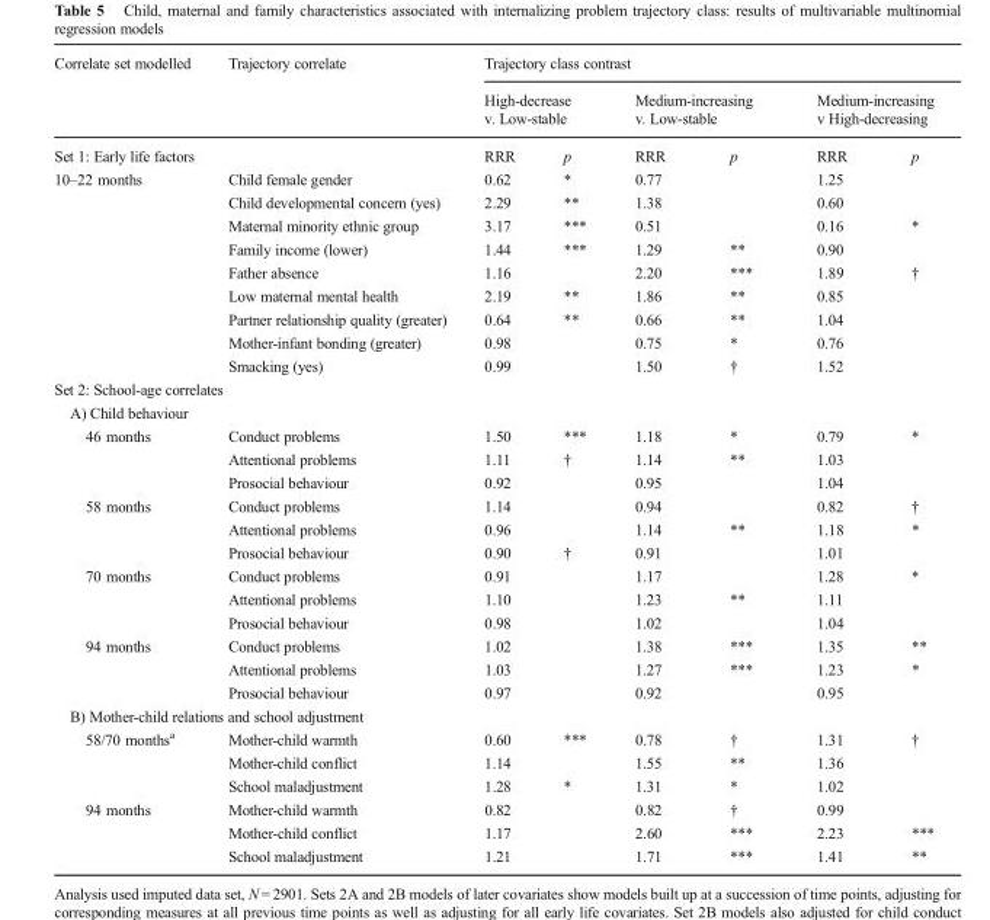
<table><thead><tr><td rowspan="2">Correlate set modelled</td><td rowspan="2">Trajectory correlate</td><td colspan="6">Trajectory class contrast</td></tr><tr><td colspan="2">High-decrease v. Low-stable</td><td colspan="2">Medium-increasing v. Low-stable</td><td colspan="2">Medium-increasing v High-decreasing</td></tr><tr><td colspan="2">Set 1: Early life factors</td><td>RRR</td><td>p</td><td>RRR</td><td>p</td><td>RRR</td><td>p</td></tr></thead><tbody><tr><td rowspan="9">10–22 months</td><td>Child female gender</td><td>0.62</td><td>*</td><td>0.77</td><td></td><td>1.25</td><td></td></tr><tr><td>Child developmental concern (yes)</td><td>2.29</td><td>**</td><td>1.38</td><td></td><td>0.60</td><td></td></tr><tr><td>Maternal minority ethnic group</td><td>3.17</td><td>***</td><td>0.51</td><td></td><td>0.16</td><td>*</td></tr><tr><td>Family income (lower)</td><td>1.44</td><td>***</td><td>1.29</td><td>**</td><td>0.90</td><td></td></tr><tr><td>Father absence</td><td>1.16</td><td></td><td>2.20</td><td>***</td><td>1.89</td><td>†</td></tr><tr><td>Low maternal mental health</td><td>2.19</td><td>**</td><td>1.86</td><td>**</td><td>0.85</td><td></td></tr><tr><td>Partner relationship quality (greater)</td><td>0.64</td><td>**</td><td>0.66</td><td>**</td><td>1.04</td><td></td></tr><tr><td>Mother-infant bonding (greater)</td><td>0.98</td><td></td><td>0.75</td><td>*</td><td>0.76</td><td></td></tr><tr><td>Smacking (yes)</td><td>0.99</td><td></td><td>1.50</td><td>†</td><td>1.52</td><td></td></tr><tr><td colspan="8">Set 2: School-age correlates</td></tr><tr><td colspan="8">A) Child behaviour</td></tr><tr><td rowspan="3">46 months</td><td>Conduct problems</td><td>1.50</td><td>***</td><td>1.18</td><td>*</td><td>0.79</td><td>*</td></tr><tr><td>Attentional problems</td><td>1.11</td><td>†</td><td>1.14</td><td>**</td><td>1.03</td><td></td></tr><tr><td>Prosocial behaviour</td><td>0.92</td><td></td><td>0.95</td><td></td><td>1.04</td><td></td></tr><tr><td rowspan="3">58 months</td><td>Conduct problems</td><td>1.14</td><td></td><td>0.94</td><td></td><td>0.82</td><td>†</td></tr><tr><td>Attentional problems</td><td>0.96</td><td></td><td>1.14</td><td>**</td><td>1.18</td><td>*</td></tr><tr><td>Prosocial behaviour</td><td>0.90</td><td>†</td><td>0.91</td><td></td><td>1.01</td><td></td></tr><tr><td rowspan="3">70 months</td><td>Conduct problems</td><td>0.91</td><td></td><td>1.17</td><td></td><td>1.28</td><td>*</td></tr><tr><td>Attentional problems</td><td>1.10</td><td></td><td>1.23</td><td>**</td><td>1.11</td><td></td></tr><tr><td>Prosocial behaviour</td><td>0.98</td><td></td><td>1.02</td><td></td><td>1.04</td><td></td></tr><tr><td rowspan="3">94 months</td><td>Conduct problems</td><td>1.02</td><td></td><td>1.38</td><td>***</td><td>1.35</td><td>**</td></tr><tr><td>Attentional problems</td><td>1.03</td><td></td><td>1.27</td><td>***</td><td>1.23</td><td>*</td></tr><tr><td>Prosocial behaviour</td><td>0.97</td><td></td><td>0.92</td><td></td><td>0.95</td><td></td></tr><tr><td colspan="8">B) Mother-child relations and school adjustment</td></tr><tr><td rowspan="3">58/70 months<sup>a</sup></td><td>Mother-child warmth</td><td>0.60</td><td>***</td><td>0.78</td><td>†</td><td>1.31</td><td>†</td></tr><tr><td>Mother-child conflict</td><td>1.14</td><td></td><td>1.55</td><td>**</td><td>1.36</td><td></td></tr><tr><td>School maladjustment</td><td>1.28</td><td>*</td><td>1.31</td><td>*</td><td>1.02</td><td></td></tr><tr><td rowspan="3">94 months</td><td>Mother-child warmth</td><td>0.82</td><td></td><td>0.82</td><td>†</td><td>0.99</td><td></td></tr><tr><td>Mother-child conflict</td><td>1.17</td><td></td><td>2.60</td><td>***</td><td>2.23</td><td>***</td></tr><tr><td>School maladjustment</td><td>1.21</td><td></td><td>1.71</td><td>***</td><td>1.41</td><td>**</td></tr></tbody></table>